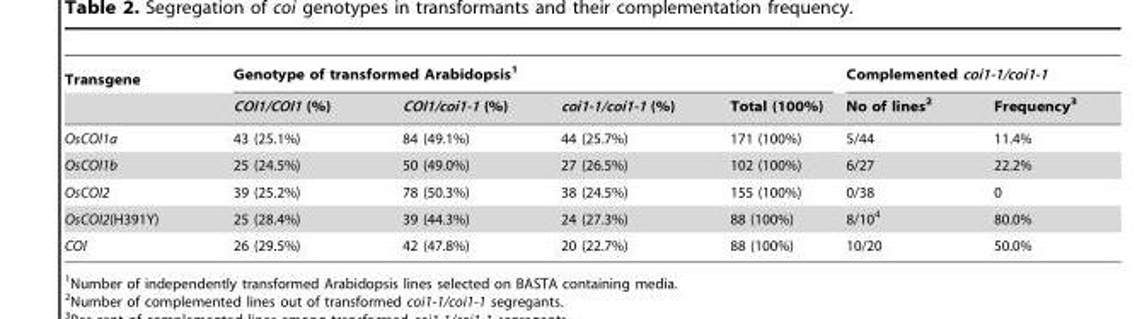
<table><thead><tr><td rowspan="2">Transgene</td><td colspan="4">Genotype of transformed Arabidopsis<sup>1</sup></td><td colspan="2">Complemented coi1-1/coi1-1</td></tr><tr><td>COI1/COI1 (%)</td><td>COI1/coi1-1 (%)</td><td>coi1-1/coi1-1 (%)</td><td>Total (100%)</td><td>No of lines<sup>2</sup></td><td>Frequency<sup>3</sup></td></tr></thead><tbody><tr><td>OsCOI1a</td><td>43 (25.1%)</td><td>84 (49.1%)</td><td>44 (25.7%)</td><td>171 (100%)</td><td>5/44</td><td>11.4%</td></tr><tr><td>OsCOI1b</td><td>25 (24.5%)</td><td>50 (49.0%)</td><td>27 (26.5%)</td><td>102 (100%)</td><td>6/27</td><td>22.2%</td></tr><tr><td>OsCOI2</td><td>39 (25.2%)</td><td>78 (50.3%)</td><td>38 (24.5%)</td><td>155 (100%)</td><td>0/38</td><td>0</td></tr><tr><td>OsCOI2(H391Y)</td><td>25 (28.4%)</td><td>39 (44.3%)</td><td>24 (27.3%)</td><td>88 (100%)</td><td>8/10<sup>4</sup></td><td>80.0%</td></tr><tr><td>COI</td><td>26 (29.5%)</td><td>42 (47.8%)</td><td>20 (22.7%)</td><td>88 (100%)</td><td>10/20</td><td>50.0%</td></tr></tbody></table>